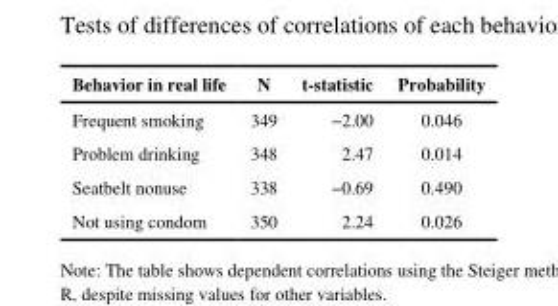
<table><thead><tr><td>Behavior in real life</td><td>N</td><td>t-statistic</td><td>Probability</td></tr></thead><tbody><tr><td>Frequent smoking</td><td>349</td><td>−2.00</td><td>0.046</td></tr><tr><td>Problem drinking</td><td>348</td><td>2.47</td><td>0.014</td></tr><tr><td>Seatbelt nonuse</td><td>338</td><td>−0.69</td><td>0.490</td></tr><tr><td>Not using condom</td><td>350</td><td>2.24</td><td>0.026</td></tr></tbody></table>